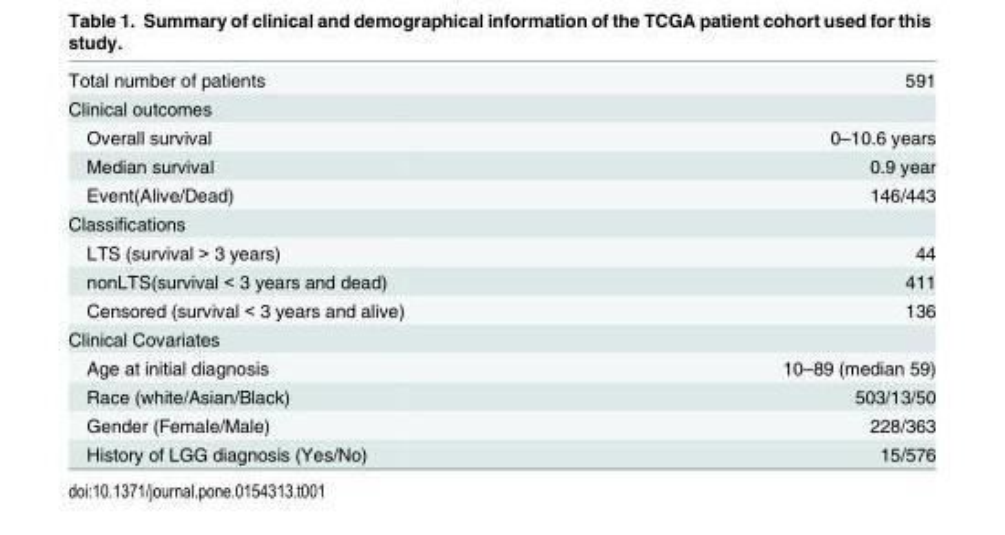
<table><tbody><tr><td>Total number of patients</td><td>591</td></tr><tr><td colspan="2">Clinical outcomes</td></tr><tr><td>Overall survival</td><td>0–10.6 years</td></tr><tr><td>Median survival</td><td>0.9 year</td></tr><tr><td>Event(Alive/Dead)</td><td>146/443</td></tr><tr><td colspan="2">Classifications</td></tr><tr><td>LTS (survival &gt; 3 years)</td><td>44</td></tr><tr><td>nonLTS(survival &lt; 3 years and dead)</td><td>411</td></tr><tr><td>Censored (survival &lt; 3 years and alive)</td><td>136</td></tr><tr><td colspan="2">Clinical Covariates</td></tr><tr><td>Age at initial diagnosis</td><td>10–89 (median 59)</td></tr><tr><td>Race (white/Asian/Black)</td><td>503/13/50</td></tr><tr><td>Gender (Female/Male)</td><td>228/363</td></tr><tr><td>History of LGG diagnosis (Yes/No)</td><td>15/576</td></tr></tbody></table>